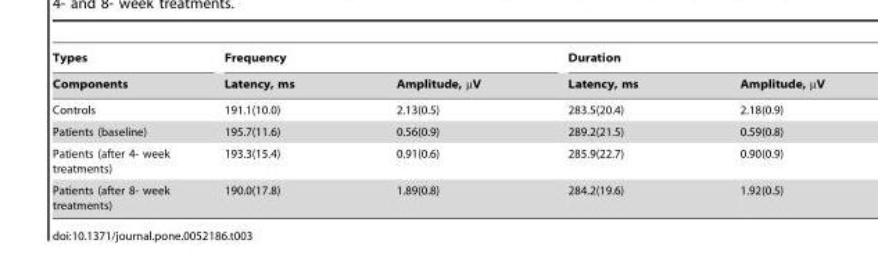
<table><thead><tr><td rowspan="2">Types Components</td><td colspan="2">Frequency</td><td colspan="2">Duration</td></tr><tr><td>Latency, ms</td><td>Amplitude, µV</td><td>Latency, ms</td><td>Amplitude, µV</td></tr></thead><tbody><tr><td>Controls</td><td>191.1(10.0)</td><td>2.13(0.5)</td><td>283.5(20.4)</td><td>2.18(0.9)</td></tr><tr><td>Patients (baseline)</td><td>195.7(11.6)</td><td>0.56(0.9)</td><td>289.2(21.5)</td><td>0.59(0.8)</td></tr><tr><td>Patients (after 4- week treatments)</td><td>193.3(15.4)</td><td>0.91(0.6)</td><td>285.9(22.7)</td><td>0.90(0.9)</td></tr><tr><td>Patients (after 8- week treatments)</td><td>190.0(17.8)</td><td>1.89(0.8)</td><td>284.2(19.6)</td><td>1.92(0.5)</td></tr></tbody></table>